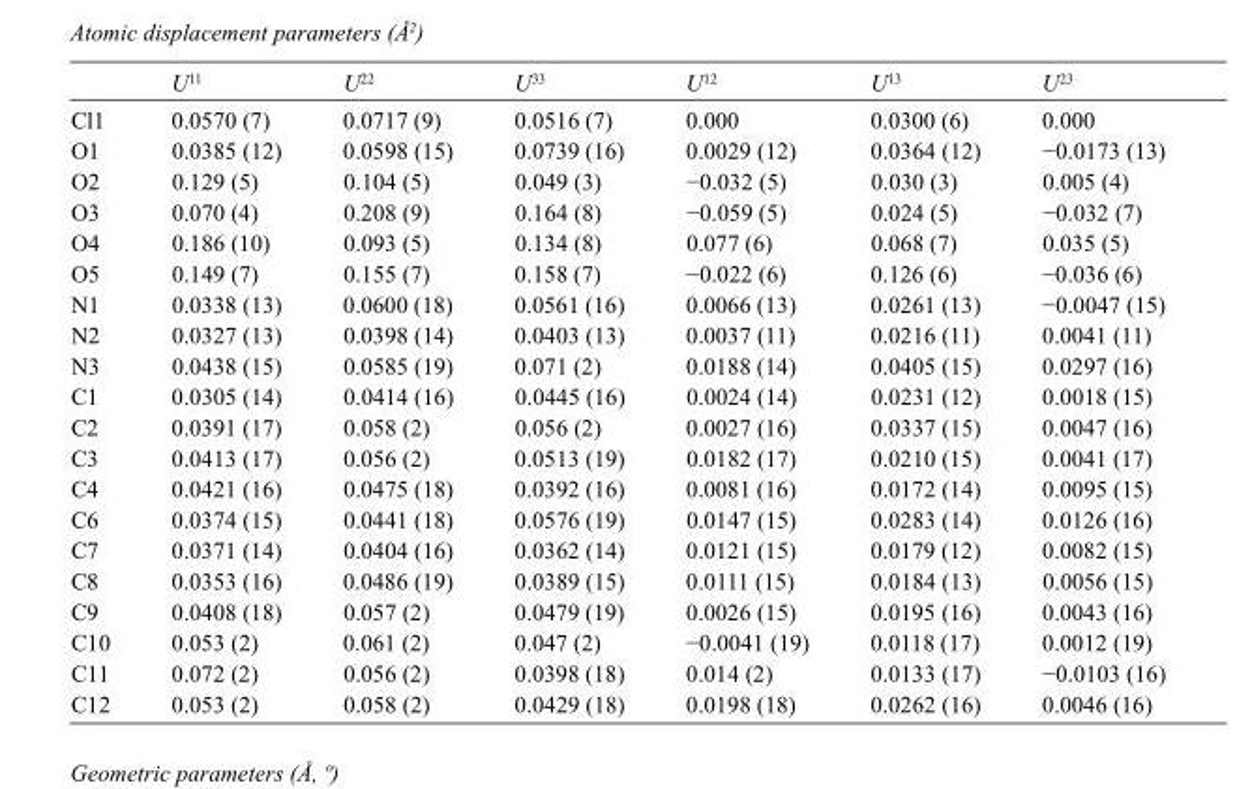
<table><thead><tr><td></td><td>U<sup>11</sup></td><td>U<sup>22</sup></td><td>U<sup>33</sup></td><td>U<sup>12</sup></td><td>U<sup>13</sup></td><td>U<sup>23</sup></td></tr></thead><tbody><tr><td>Cl1</td><td>0.0570 (7)</td><td>0.0717 (9)</td><td>0.0516 (7)</td><td>0.000</td><td>0.0300 (6)</td><td>0.000</td></tr><tr><td>O1</td><td>0.0385 (12)</td><td>0.0598 (15)</td><td>0.0739 (16)</td><td>0.0029 (12)</td><td>0.0364 (12)</td><td>−0.0173 (13)</td></tr><tr><td>O2</td><td>0.129 (5)</td><td>0.104 (5)</td><td>0.049 (3)</td><td>−0.032 (5)</td><td>0.030 (3)</td><td>0.005 (4)</td></tr><tr><td>O3</td><td>0.070 (4)</td><td>0.208 (9)</td><td>0.164 (8)</td><td>−0.059 (5)</td><td>0.024 (5)</td><td>−0.032 (7)</td></tr><tr><td>O4</td><td>0.186 (10)</td><td>0.093 (5)</td><td>0.134 (8)</td><td>0.077 (6)</td><td>0.068 (7)</td><td>0.035 (5)</td></tr><tr><td>O5</td><td>0.149 (7)</td><td>0.155 (7)</td><td>0.158 (7)</td><td>−0.022 (6)</td><td>0.126 (6)</td><td>−0.036 (6)</td></tr><tr><td>N1</td><td>0.0338 (13)</td><td>0.0600 (18)</td><td>0.0561 (16)</td><td>0.0066 (13)</td><td>0.0261 (13)</td><td>−0.0047 (15)</td></tr><tr><td>N2</td><td>0.0327 (13)</td><td>0.0398 (14)</td><td>0.0403 (13)</td><td>0.0037 (11)</td><td>0.0216 (11)</td><td>0.0041 (11)</td></tr><tr><td>N3</td><td>0.0438 (15)</td><td>0.0585 (19)</td><td>0.071 (2)</td><td>0.0188 (14)</td><td>0.0405 (15)</td><td>0.0297 (16)</td></tr><tr><td>C1</td><td>0.0305 (14)</td><td>0.0414 (16)</td><td>0.0445 (16)</td><td>0.0024 (14)</td><td>0.0231 (12)</td><td>0.0018 (15)</td></tr><tr><td>C2</td><td>0.0391 (17)</td><td>0.058 (2)</td><td>0.056 (2)</td><td>0.0027 (16)</td><td>0.0337 (15)</td><td>0.0047 (16)</td></tr><tr><td>C3</td><td>0.0413 (17)</td><td>0.056 (2)</td><td>0.0513 (19)</td><td>0.0182 (17)</td><td>0.0210 (15)</td><td>0.0041 (17)</td></tr><tr><td>C4</td><td>0.0421 (16)</td><td>0.0475 (18)</td><td>0.0392 (16)</td><td>0.0081 (16)</td><td>0.0172 (14)</td><td>0.0095 (15)</td></tr><tr><td>C6</td><td>0.0374 (15)</td><td>0.0441 (18)</td><td>0.0576 (19)</td><td>0.0147 (15)</td><td>0.0283 (14)</td><td>0.0126 (16)</td></tr><tr><td>C7</td><td>0.0371 (14)</td><td>0.0404 (16)</td><td>0.0362 (14)</td><td>0.0121 (15)</td><td>0.0179 (12)</td><td>0.0082 (15)</td></tr><tr><td>C8</td><td>0.0353 (16)</td><td>0.0486 (19)</td><td>0.0389 (15)</td><td>0.0111 (15)</td><td>0.0184 (13)</td><td>0.0056 (15)</td></tr><tr><td>C9</td><td>0.0408 (18)</td><td>0.057 (2)</td><td>0.0479 (19)</td><td>0.0026 (15)</td><td>0.0195 (16)</td><td>0.0043 (16)</td></tr><tr><td>C10</td><td>0.053 (2)</td><td>0.061 (2)</td><td>0.047 (2)</td><td>−0.0041 (19)</td><td>0.0118 (17)</td><td>0.0012 (19)</td></tr><tr><td>C11</td><td>0.072 (2)</td><td>0.056 (2)</td><td>0.0398 (18)</td><td>0.014 (2)</td><td>0.0133 (17)</td><td>−0.0103 (16)</td></tr><tr><td>C12</td><td>0.053 (2)</td><td>0.058 (2)</td><td>0.0429 (18)</td><td>0.0198 (18)</td><td>0.0262 (16)</td><td>0.0046 (16)</td></tr></tbody></table>